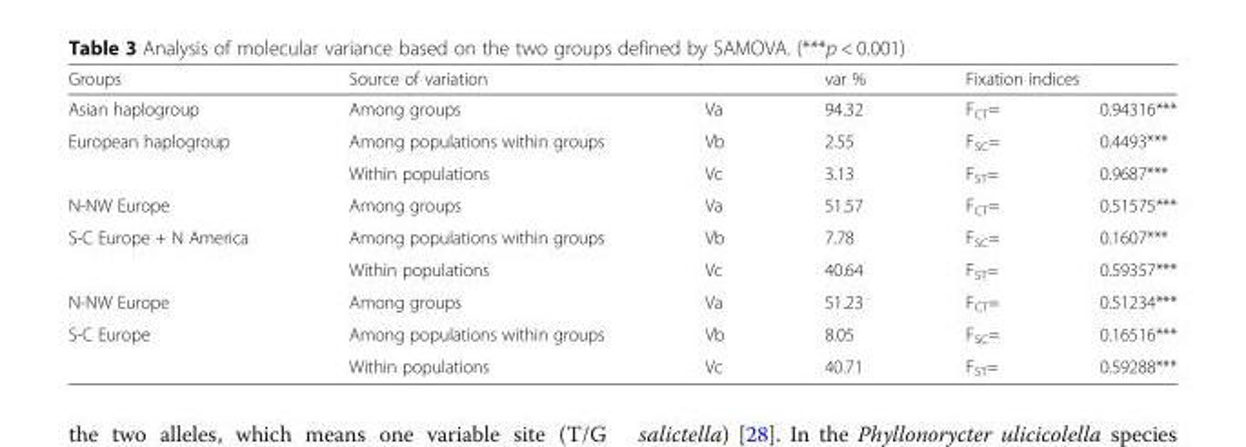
<table><thead><tr><td rowspan="2">Groups Asian haplogroup</td><td rowspan="2">Source of variation Among groups</td><td rowspan="2">Va</td><td rowspan="2">var % 94.32</td><td colspan="2">Fixation indices</td></tr><tr><td>F<sub>CT</sub>=</td><td>0.94316***</td></tr></thead><tbody><tr><td rowspan="2">European haplogroup</td><td>Among populations within groups</td><td>Vb</td><td>2.55</td><td>F<sub>SC</sub>=</td><td>0.4493***</td></tr><tr><td>Within populations</td><td>Vc</td><td>3.13</td><td>F<sub>ST</sub>=</td><td>0.9687***</td></tr><tr><td>N-NW Europe</td><td>Among groups</td><td>Va</td><td>51.57</td><td>F<sub>CT</sub>=</td><td>0.51575***</td></tr><tr><td rowspan="2">S-C Europe + N America</td><td>Among populations within groups</td><td>Vb</td><td>7.78</td><td>F<sub>SC</sub>=</td><td>0.1607***</td></tr><tr><td>Within populations</td><td>Vc</td><td>40.64</td><td>F<sub>ST</sub>=</td><td>0.59357***</td></tr><tr><td>N-NW Europe</td><td>Among groups</td><td>Va</td><td>51.23</td><td>F<sub>CT</sub>=</td><td>0.51234***</td></tr><tr><td rowspan="2">S-C Europe</td><td>Among populations within groups</td><td>Vb</td><td>8.05</td><td>F<sub>SC</sub>=</td><td>0.16516***</td></tr><tr><td>Within populations</td><td>Vc</td><td>40.71</td><td>F<sub>ST</sub>=</td><td>0.59288***</td></tr></tbody></table>